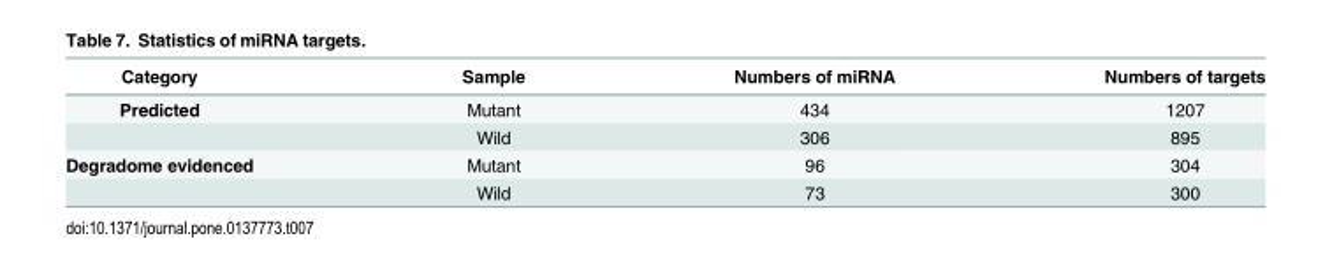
<table><thead><tr><td>Category</td><td>Sample</td><td>Numbers of miRNA</td><td>Numbers of targets</td></tr></thead><tbody><tr><td rowspan="2">Predicted</td><td>Mutant</td><td>434</td><td>1207</td></tr><tr><td>Wild</td><td>306</td><td>895</td></tr><tr><td rowspan="2">Degradome evidenced</td><td>Mutant</td><td>96</td><td>304</td></tr><tr><td>Wild</td><td>73</td><td>300</td></tr></tbody></table>